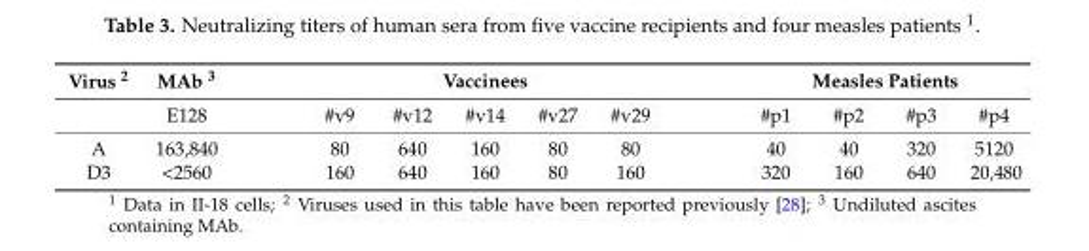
<table><thead><tr><td rowspan="2">Virus <sup>2</sup></td><td rowspan="2">MAb <sup>3</sup> E128</td><td colspan="5">Vaccinees</td><td colspan="4">Measles Patients</td></tr><tr><td>#v9</td><td>#v12</td><td>#v14</td><td>#v27</td><td>#v29</td><td>#p1</td><td>#p2</td><td>#p3</td><td>#p4</td></tr></thead><tbody><tr><td>A</td><td>163,840</td><td>80</td><td>640</td><td>160</td><td>80</td><td>80</td><td>40</td><td>40</td><td>320</td><td>5120</td></tr><tr><td>D3</td><td>&lt;2560</td><td>160</td><td>640</td><td>160</td><td>80</td><td>160</td><td>320</td><td>160</td><td>640</td><td>20,480</td></tr></tbody></table>